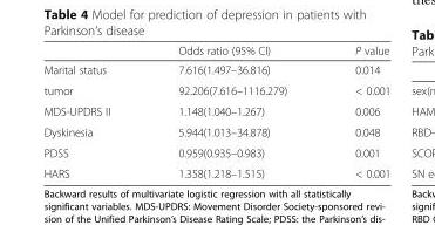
<table><thead><tr><td></td><td>Odds ratio (95% CI)</td><td>P value</td></tr></thead><tbody><tr><td>Marital status</td><td>7.616(1.497–36.816)</td><td>0.014</td></tr><tr><td>tumor</td><td>92.206(7.616–1116.279)</td><td>&lt; 0.001</td></tr><tr><td>MDS-UPDRS II</td><td>1.148(1.040–1.267)</td><td>0.006</td></tr><tr><td>Dyskinesia</td><td>5.944(1.013–34.878)</td><td>0.048</td></tr><tr><td>PDSS</td><td>0.959(0.935–0.983)</td><td>0.001</td></tr><tr><td>HARS</td><td>1.358(1.218–1.515)</td><td>&lt; 0.001</td></tr></tbody></table>